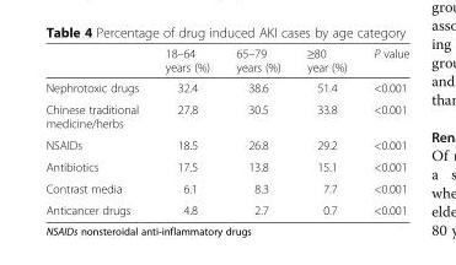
<table><thead><tr><td></td><td>18–64 years (%)</td><td>65–79 years (%)</td><td>≥80 year (%)</td><td>P value</td></tr></thead><tbody><tr><td>Nephrotoxic drugs</td><td>32.4</td><td>38.6</td><td>51.4</td><td>&lt;0.001</td></tr><tr><td>Chinese traditional medicine/herbs</td><td>27.8</td><td>30.5</td><td>33.8</td><td>&lt;0.001</td></tr><tr><td>NSAIDs</td><td>18.5</td><td>26.8</td><td>29.2</td><td>&lt;0.001</td></tr><tr><td>Antibiotics</td><td>17.5</td><td>13.8</td><td>15.1</td><td>&lt;0.001</td></tr><tr><td>Contrast media</td><td>6.1</td><td>8.3</td><td>7.7</td><td>&lt;0.001</td></tr><tr><td>Anticancer drugs</td><td>4.8</td><td>2.7</td><td>0.7</td><td>&lt;0.001</td></tr></tbody></table>